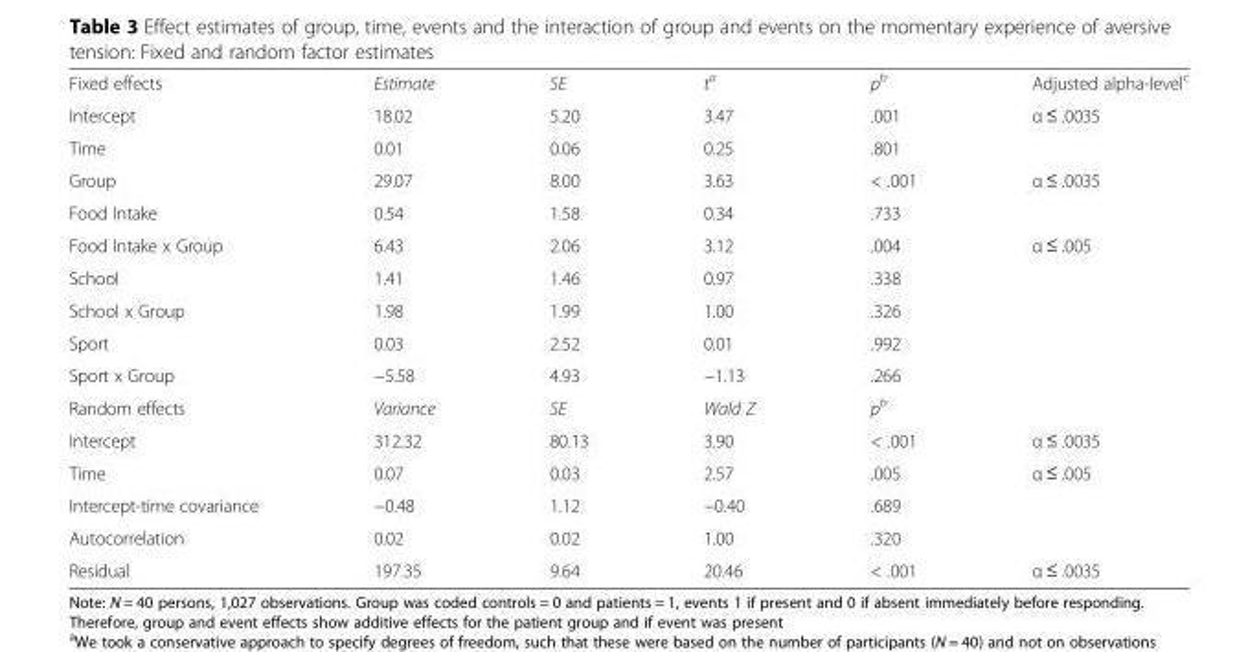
<table><tbody><tr><td>Fixed effects</td><td>Estimate</td><td>SE</td><td>t<sup>a</sup></td><td>p<sup>b</sup></td><td>Adjusted alpha-level<sup>c</sup></td></tr><tr><td>Intercept</td><td>18.02</td><td>5.20</td><td>3.47</td><td>.001</td><td>α ≤ .0035</td></tr><tr><td>Time</td><td>0.01</td><td>0.06</td><td>0.25</td><td>.801</td><td></td></tr><tr><td>Group</td><td>29.07</td><td>8.00</td><td>3.63</td><td>&lt; .001</td><td>α ≤ .0035</td></tr><tr><td>Food Intake</td><td>0.54</td><td>1.58</td><td>0.34</td><td>.733</td><td></td></tr><tr><td>Food Intake x Group</td><td>6.43</td><td>2.06</td><td>3.12</td><td>.004</td><td>α ≤ .005</td></tr><tr><td>School</td><td>1.41</td><td>1.46</td><td>0.97</td><td>.338</td><td></td></tr><tr><td>School x Group</td><td>1.98</td><td>1.99</td><td>1.00</td><td>.326</td><td></td></tr><tr><td>Sport</td><td>0.03</td><td>2.52</td><td>0.01</td><td>.992</td><td></td></tr><tr><td>Sport x Group</td><td>−5.58</td><td>4.93</td><td>−1.13</td><td>.266</td><td></td></tr><tr><td>Random effects</td><td>Variance</td><td>SE</td><td>Wald Z</td><td>p<sup>b</sup></td><td></td></tr><tr><td>Intercept</td><td>312.32</td><td>80.13</td><td>3.90</td><td>&lt; .001</td><td>α ≤ .0035</td></tr><tr><td>Time</td><td>0.07</td><td>0.03</td><td>2.57</td><td>.005</td><td>α ≤ .005</td></tr><tr><td>Intercept-time covariance</td><td>−0.48</td><td>1.12</td><td>−0.40</td><td>.689</td><td></td></tr><tr><td>Autocorrelation</td><td>0.02</td><td>0.02</td><td>1.00</td><td>.320</td><td></td></tr><tr><td>Residual</td><td>197.35</td><td>9.64</td><td>20.46</td><td>&lt; .001</td><td>α ≤ .0035</td></tr></tbody></table>